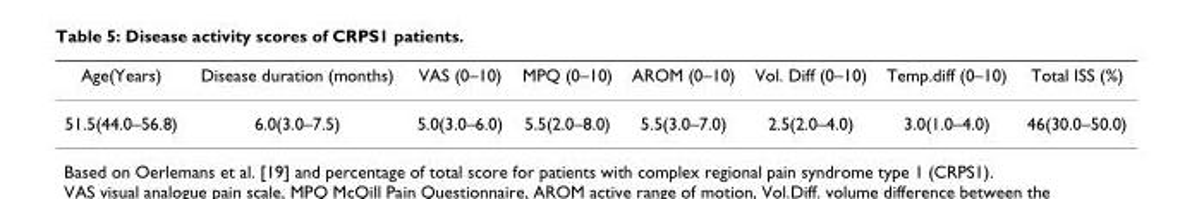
<table><thead><tr><td>Age(Years)</td><td>Disease duration (months)</td><td>VAS (0–10)</td><td>MPQ (0–10)</td><td>AROM (0–10)</td><td>Vol. Diff (0–10)</td><td>Temp.diff (0–10)</td><td>Total ISS (%)</td></tr></thead><tbody><tr><td>51.5(44.0–56.8)</td><td>6.0(3.0–7.5)</td><td>5.0(3.0–6.0)</td><td>5.5(2.0–8.0)</td><td>5.5(3.0–7.0)</td><td>2.5(2.0–4.0)</td><td>3.0(1.0–4.0)</td><td>46(30.0–50.0)</td></tr></tbody></table>